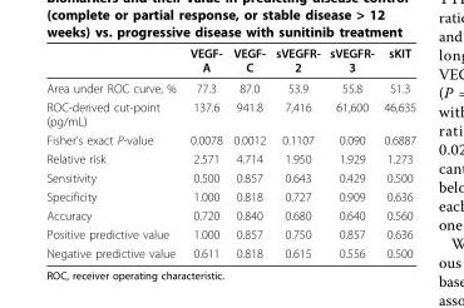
<table><thead><tr><td></td><td>VEGF- A</td><td>VEGF- C</td><td>sVEGFR- 2</td><td>sVEGFR- 3</td><td>sKIT</td></tr></thead><tbody><tr><td>Area under ROC curve, %</td><td>77.3</td><td>87.0</td><td>53.9</td><td>55.8</td><td>51.3</td></tr><tr><td>ROC-derived cut-point (pg/mL)</td><td>137.6</td><td>941.8</td><td>7,416</td><td>61,600</td><td>46,635</td></tr><tr><td>Fisher’s exact P-value</td><td>0.0078</td><td>0.0012</td><td>0.1107</td><td>0.090</td><td>0.6887</td></tr><tr><td>Relative risk</td><td>2.571</td><td>4.714</td><td>1.950</td><td>1.929</td><td>1.273</td></tr><tr><td>Sensitivity</td><td>0.500</td><td>0.857</td><td>0.643</td><td>0.429</td><td>0.500</td></tr><tr><td>Specificity</td><td>1.000</td><td>0.818</td><td>0.727</td><td>0.909</td><td>0.636</td></tr><tr><td>Accuracy</td><td>0.720</td><td>0.840</td><td>0.680</td><td>0.640</td><td>0.560</td></tr><tr><td>Positive predictive value</td><td>1.000</td><td>0.857</td><td>0.750</td><td>0.857</td><td>0.636</td></tr><tr><td>Negative predictive value</td><td>0.611</td><td>0.818</td><td>0.615</td><td>0.556</td><td>0.500</td></tr></tbody></table>